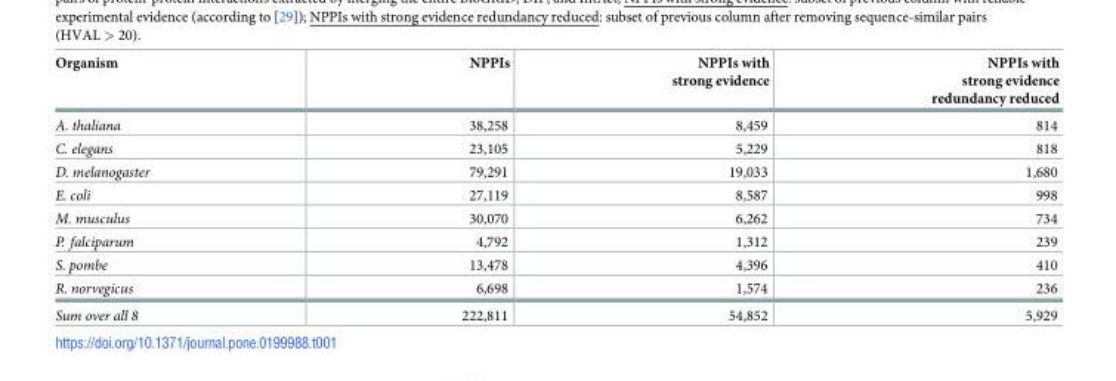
<table><thead><tr><td>Organism</td><td>NPPIs</td><td>NPPIs with strong evidence</td><td>NPPIs with strong evidence redundancy reduced</td></tr></thead><tbody><tr><td>A. thaliana</td><td>38,258</td><td>8,459</td><td>814</td></tr><tr><td>C. elegans</td><td>23,105</td><td>5,229</td><td>818</td></tr><tr><td>D. melanogaster</td><td>79,291</td><td>19,033</td><td>1,680</td></tr><tr><td>E. coli</td><td>27,119</td><td>8,587</td><td>998</td></tr><tr><td>M. musculus</td><td>30,070</td><td>6,262</td><td>734</td></tr><tr><td>P. falciparum</td><td>4,792</td><td>1,312</td><td>239</td></tr><tr><td>S. pombe</td><td>13,478</td><td>4,396</td><td>410</td></tr><tr><td>R. norvegicus</td><td>6,698</td><td>1,574</td><td>236</td></tr><tr><td>Sum over all 8</td><td>222,811</td><td>54,852</td><td>5,929</td></tr></tbody></table>